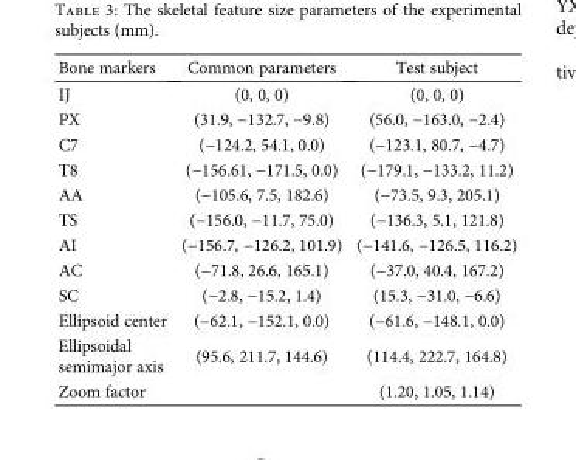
<table><thead><tr><td>Bone markers</td><td>Common parameters</td><td>Test subject</td></tr></thead><tbody><tr><td>IJ</td><td>(0, 0, 0)</td><td>(0, 0, 0)</td></tr><tr><td>PX</td><td>(31.9, −132.7, −9.8)</td><td>(56.0, −163.0, −2.4)</td></tr><tr><td>C7</td><td>(−124.2, 54.1, 0.0)</td><td>(−123.1, 80.7, −4.7)</td></tr><tr><td>T8</td><td>(−156.61, −171.5, 0.0)</td><td>(−179.1, −133.2, 11.2)</td></tr><tr><td>AA</td><td>(−105.6, 7.5, 182.6)</td><td>(−73.5, 9.3, 205.1)</td></tr><tr><td>TS</td><td>(−156.0, −11.7, 75.0)</td><td>(−136.3, 5.1, 121.8)</td></tr><tr><td>AI</td><td>(−156.7, −126.2, 101.9)</td><td>(−141.6, −126.5, 116.2)</td></tr><tr><td>AC</td><td>(−71.8, 26.6, 165.1)</td><td>(−37.0, 40.4, 167.2)</td></tr><tr><td>SC</td><td>(−2.8, −15.2, 1.4)</td><td>(15.3, −31.0, −6.6)</td></tr><tr><td>Ellipsoid center</td><td>(−62.1, −152.1, 0.0)</td><td>(−61.6, −148.1, 0.0)</td></tr><tr><td>Ellipsoidal semimajor axis</td><td>(95.6, 211.7, 144.6)</td><td>(114.4, 222.7, 164.8)</td></tr><tr><td>Zoom factor</td><td></td><td>(1.20, 1.05, 1.14)</td></tr></tbody></table>